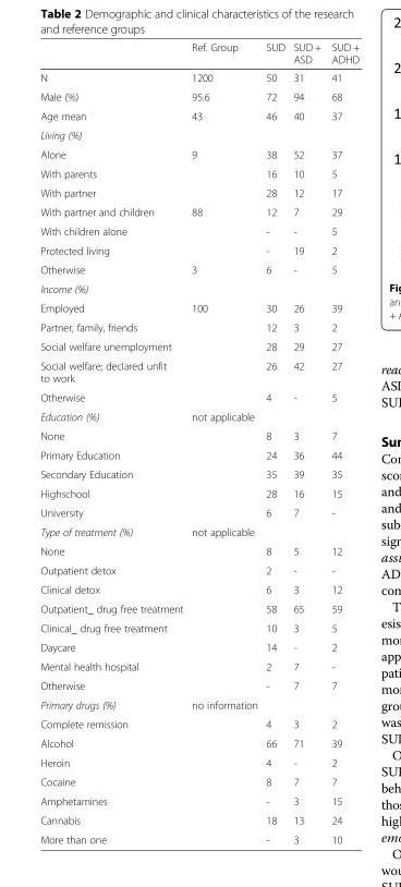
<table><thead><tr><td></td><td>Ref. Group</td><td>SUD</td><td>SUD + ASD</td><td>SUD + ADHD</td></tr></thead><tbody><tr><td>N</td><td>1200</td><td>50</td><td>31</td><td>41</td></tr><tr><td>Male (%)</td><td>95.6</td><td>72</td><td>94</td><td>68</td></tr><tr><td>Age mean</td><td>43</td><td>46</td><td>40</td><td>37</td></tr><tr><td colspan="5">Living (%)</td></tr><tr><td>Alone</td><td>9</td><td>38</td><td>52</td><td>37</td></tr><tr><td>With parents</td><td></td><td>16</td><td>10</td><td>5</td></tr><tr><td>With partner</td><td></td><td>28</td><td>12</td><td>17</td></tr><tr><td>With partner and children</td><td>88</td><td>12</td><td>7</td><td>29</td></tr><tr><td>With children alone</td><td></td><td>-</td><td>-</td><td>5</td></tr><tr><td>Protected living</td><td></td><td>-</td><td>19</td><td>2</td></tr><tr><td>Otherwise</td><td>3</td><td>6</td><td>-</td><td>5</td></tr><tr><td colspan="5">Income (%)</td></tr><tr><td>Employed</td><td>100</td><td>30</td><td>26</td><td>39</td></tr><tr><td>Partner, family, friends</td><td></td><td>12</td><td>3</td><td>2</td></tr><tr><td>Social welfare unemployment</td><td></td><td>28</td><td>29</td><td>27</td></tr><tr><td>Social welfare; declared unfit to work</td><td></td><td>26</td><td>42</td><td>27</td></tr><tr><td>Otherwise</td><td></td><td>4</td><td>-</td><td>5</td></tr><tr><td>Education (%)</td><td>not applicable</td><td></td><td></td><td></td></tr><tr><td>None</td><td></td><td>8</td><td>3</td><td>7</td></tr><tr><td>Primary Education</td><td></td><td>24</td><td>36</td><td>44</td></tr><tr><td>Secondary Education</td><td></td><td>35</td><td>39</td><td>35</td></tr><tr><td>Highschool</td><td></td><td>28</td><td>16</td><td>15</td></tr><tr><td>University</td><td></td><td>6</td><td>7</td><td>-</td></tr><tr><td>Type of treatment (%)</td><td>not applicable</td><td></td><td></td><td></td></tr><tr><td>None</td><td></td><td>8</td><td>5</td><td>12</td></tr><tr><td>Outpatient detox</td><td></td><td>2</td><td>-</td><td>-</td></tr><tr><td>Clinical detox</td><td></td><td>6</td><td>3</td><td>12</td></tr><tr><td>Outpatient_ drug free treatment</td><td></td><td>58</td><td>65</td><td>59</td></tr><tr><td>Clinical_ drug free treatment</td><td></td><td>10</td><td>3</td><td>5</td></tr><tr><td>Daycare</td><td></td><td>14</td><td>-</td><td>2</td></tr><tr><td>Mental health hospital</td><td></td><td>2</td><td>7</td><td>-</td></tr><tr><td>Otherwise</td><td></td><td>-</td><td>7</td><td>7</td></tr><tr><td>Primary drugs (%)</td><td>no information</td><td></td><td></td><td></td></tr><tr><td>Complete remission</td><td></td><td>4</td><td>3</td><td>2</td></tr><tr><td>Alcohol</td><td></td><td>66</td><td>71</td><td>39</td></tr><tr><td>Heroin</td><td></td><td>4</td><td>-</td><td>2</td></tr><tr><td>Cocaine</td><td></td><td>8</td><td>7</td><td>7</td></tr><tr><td>Amphetamines</td><td></td><td>-</td><td>3</td><td>15</td></tr><tr><td>Cannabis</td><td></td><td>18</td><td>13</td><td>24</td></tr><tr><td>More than one</td><td></td><td>-</td><td>3</td><td>10</td></tr></tbody></table>